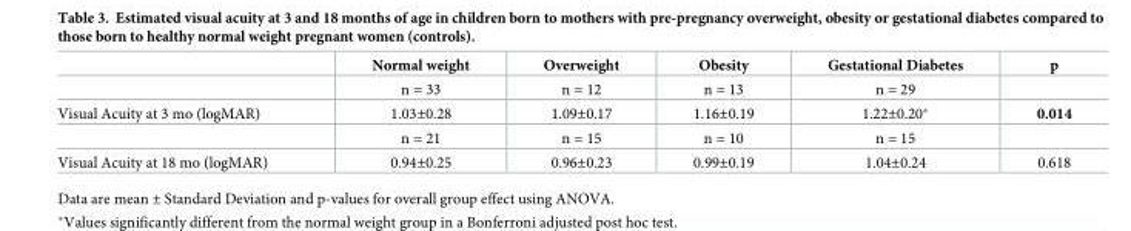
<table><thead><tr><td></td><td>Normal weight</td><td>Overweight</td><td>Obesity</td><td>Gestational Diabetes</td><td>p</td></tr></thead><tbody><tr><td></td><td>n = 33</td><td>n = 12</td><td>n = 13</td><td>n = 29</td><td></td></tr><tr><td rowspan="2">Visual Acuity at 3 mo (logMAR)</td><td>1.03±0.28</td><td>1.09±0.17</td><td>1.16±0.19</td><td>1.22±0.20*</td><td>0.014</td></tr><tr><td>n = 21</td><td>n = 15</td><td>n = 10</td><td>n = 15</td><td></td></tr><tr><td>Visual Acuity at 18 mo (logMAR)</td><td>0.94±0.25</td><td>0.96±0.23</td><td>0.99±0.19</td><td>1.04±0.24</td><td>0.618</td></tr></tbody></table>